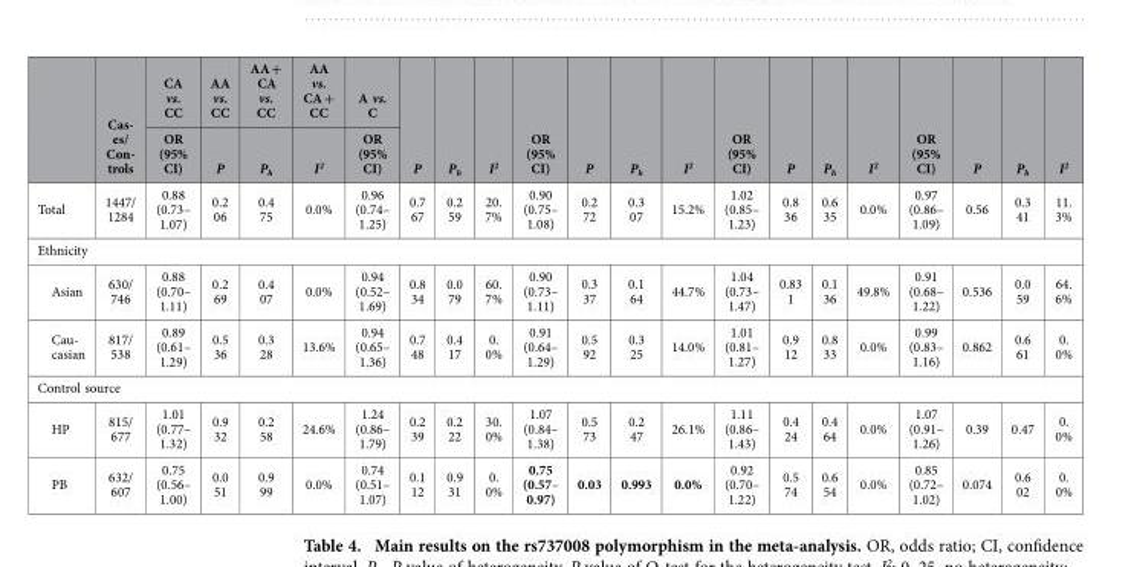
<table><thead><tr><td rowspan="2"></td><td rowspan="2">Cas- es/ Con- trols</td><td rowspan="2">CA vs. CC OR (95% CI)</td><td rowspan="2">AA vs. CC P</td><td rowspan="2">AA + CA vs. CC P<sub>h</sub></td><td rowspan="2">AA vs. CA + CC I<sup>2</sup></td><td rowspan="2">A vs. C OR (95% CI)</td><td rowspan="2">P</td><td rowspan="2">P<sub>h</sub></td><td rowspan="2">I<sup>2</sup></td><td rowspan="2">OR (95% CI)</td><td rowspan="2">P</td><td rowspan="2">P<sub>h</sub></td><td rowspan="2">I<sup>2</sup></td><td rowspan="2">OR (95% CI)</td><td rowspan="2">P</td><td rowspan="2">P<sub>h</sub></td><td rowspan="2">I<sup>2</sup></td><td rowspan="2">OR (95% CI)</td><td rowspan="2">P</td><td rowspan="2">P<sub>h</sub></td><td rowspan="2">I<sup>2</sup></td></tr><tr></tr></thead><tbody><tr><td>Total</td><td>1447/ 1284</td><td>0.88 (0.73– 1.07)</td><td>0.2 06</td><td>0.4 75</td><td>0.0%</td><td>0.96 (0.74– 1.25)</td><td>0.7 67</td><td>0.2 59</td><td>20. 7%</td><td>0.90 (0.75– 1.08)</td><td>0.2 72</td><td>0.3 07</td><td>15.2%</td><td>1.02 (0.85– 1.23)</td><td>0.8 36</td><td>0.6 35</td><td>0.0%</td><td>0.97 (0.86– 1.09)</td><td>0.56</td><td>0.3 41</td><td>11. 3%</td></tr><tr><td colspan="22">Ethnicity</td></tr><tr><td>Asian</td><td>630/ 746</td><td>0.88 (0.70– 1.11)</td><td>0.2 69</td><td>0.4 07</td><td>0.0%</td><td>0.94 (0.52– 1.69)</td><td>0.8 34</td><td>0.0 79</td><td>60. 7%</td><td>0.90 (0.73– 1.11)</td><td>0.3 37</td><td>0.1 64</td><td>44.7%</td><td>1.04 (0.73– 1.47)</td><td>0.83 1</td><td>0.1 36</td><td>49.8%</td><td>0.91 (0.68– 1.22)</td><td>0.536</td><td>0.0 59</td><td>64. 6%</td></tr><tr><td>Cau- casian</td><td>817/ 538</td><td>0.89 (0.61– 1.29)</td><td>0.5 36</td><td>0.3 28</td><td>13.6%</td><td>0.94 (0.65– 1.36)</td><td>0.7 48</td><td>0.4 17</td><td>0. 0%</td><td>0.91 (0.64– 1.29)</td><td>0.5 92</td><td>0.3 25</td><td>14.0%</td><td>1.01 (0.81– 1.27)</td><td>0.9 12</td><td>0.8 33</td><td>0.0%</td><td>0.99 (0.83– 1.16)</td><td>0.862</td><td>0.6 61</td><td>0. 0%</td></tr><tr><td colspan="22">Control source</td></tr><tr><td>HP</td><td>815/ 677</td><td>1.01 (0.77– 1.32)</td><td>0.9 32</td><td>0.2 58</td><td>24.6%</td><td>1.24 (0.86– 1.79)</td><td>0.2 39</td><td>0.2 22</td><td>30. 0%</td><td>1.07 (0.84– 1.38)</td><td>0.5 73</td><td>0.2 47</td><td>26.1%</td><td>1.11 (0.86– 1.43)</td><td>0.4 24</td><td>0.4 64</td><td>0.0%</td><td>1.07 (0.91– 1.26)</td><td>0.39</td><td>0.47</td><td>0. 0%</td></tr><tr><td>PB</td><td>632/ 607</td><td>0.75 (0.56– 1.00)</td><td>0.0 51</td><td>0.9 99</td><td>0.0%</td><td>0.74 (0.51– 1.07)</td><td>0.1 12</td><td>0.9 31</td><td>0. 0%</td><td>0.75 (0.57– 0.97)</td><td>0.03</td><td>0.993</td><td>0.0%</td><td>0.92 (0.70– 1.22)</td><td>0.5 74</td><td>0.6 54</td><td>0.0%</td><td>0.85 (0.72– 1.02)</td><td>0.074</td><td>0.6 02</td><td>0. 0%</td></tr></tbody></table>